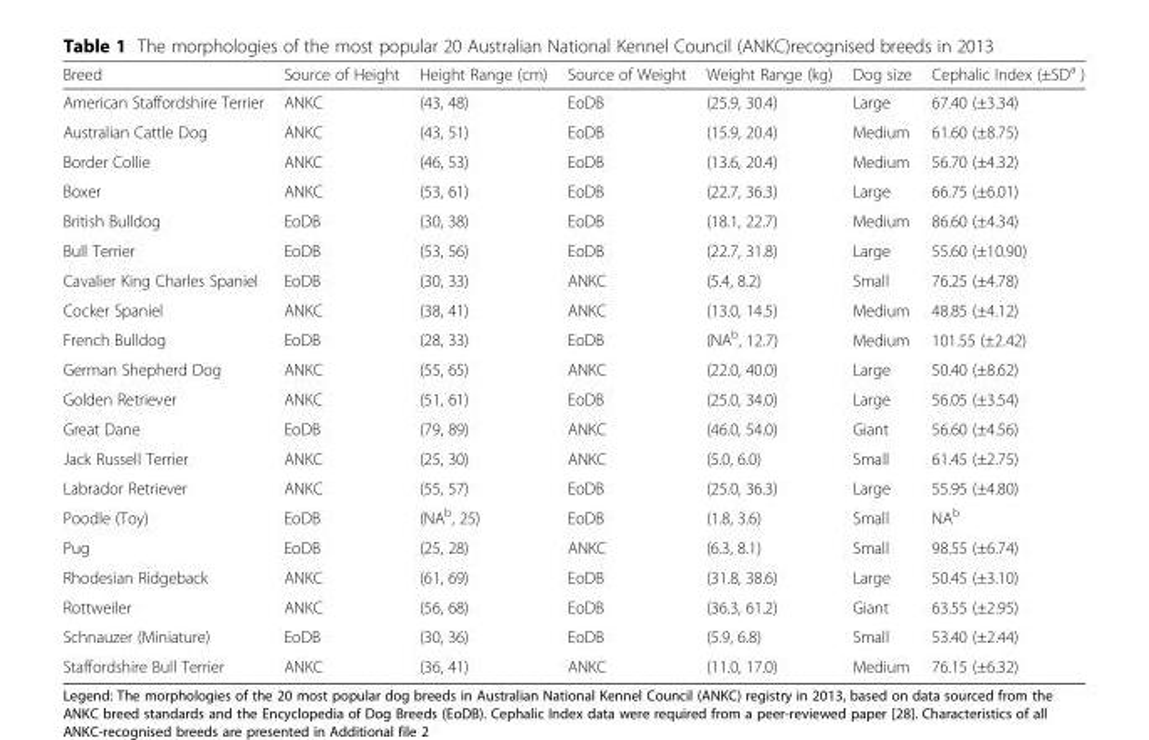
<table><thead><tr><td>Breed</td><td>Source of Height</td><td>Height Range (cm)</td><td>Source of Weight</td><td>Weight Range (kg)</td><td>Dog size</td><td>Cephalic Index (±SD<sup>a</sup> )</td></tr></thead><tbody><tr><td>American Staffordshire Terrier</td><td>ANKC</td><td>(43, 48)</td><td>EoDB</td><td>(25.9, 30.4)</td><td>Large</td><td>67.40 (±3.34)</td></tr><tr><td>Australian Cattle Dog</td><td>ANKC</td><td>(43, 51)</td><td>EoDB</td><td>(15.9, 20.4)</td><td>Medium</td><td>61.60 (±8.75)</td></tr><tr><td>Border Collie</td><td>ANKC</td><td>(46, 53)</td><td>EoDB</td><td>(13.6, 20.4)</td><td>Medium</td><td>56.70 (±4.32)</td></tr><tr><td>Boxer</td><td>ANKC</td><td>(53, 61)</td><td>EoDB</td><td>(22.7, 36.3)</td><td>Large</td><td>66.75 (±6.01)</td></tr><tr><td>British Bulldog</td><td>EoDB</td><td>(30, 38)</td><td>EoDB</td><td>(18.1, 22.7)</td><td>Medium</td><td>86.60 (±4.34)</td></tr><tr><td>Bull Terrier</td><td>EoDB</td><td>(53, 56)</td><td>EoDB</td><td>(22.7, 31.8)</td><td>Large</td><td>55.60 (±10.90)</td></tr><tr><td>Cavalier King Charles Spaniel</td><td>EoDB</td><td>(30, 33)</td><td>ANKC</td><td>(5.4, 8.2)</td><td>Small</td><td>76.25 (±4.78)</td></tr><tr><td>Cocker Spaniel</td><td>ANKC</td><td>(38, 41)</td><td>ANKC</td><td>(13.0, 14.5)</td><td>Medium</td><td>48.85 (±4.12)</td></tr><tr><td>French Bulldog</td><td>EoDB</td><td>(28, 33)</td><td>EoDB</td><td>(NA<sup>b</sup>, 12.7)</td><td>Medium</td><td>101.55 (±2.42)</td></tr><tr><td>German Shepherd Dog</td><td>ANKC</td><td>(55, 65)</td><td>ANKC</td><td>(22.0, 40.0)</td><td>Large</td><td>50.40 (±8.62)</td></tr><tr><td>Golden Retriever</td><td>ANKC</td><td>(51, 61)</td><td>EoDB</td><td>(25.0, 34.0)</td><td>Large</td><td>56.05 (±3.54)</td></tr><tr><td>Great Dane</td><td>EoDB</td><td>(79, 89)</td><td>ANKC</td><td>(46.0, 54.0)</td><td>Giant</td><td>56.60 (±4.56)</td></tr><tr><td>Jack Russell Terrier</td><td>ANKC</td><td>(25, 30)</td><td>ANKC</td><td>(5.0, 6.0)</td><td>Small</td><td>61.45 (±2.75)</td></tr><tr><td>Labrador Retriever</td><td>ANKC</td><td>(55, 57)</td><td>EoDB</td><td>(25.0, 36.3)</td><td>Large</td><td>55.95 (±4.80)</td></tr><tr><td>Poodle (Toy)</td><td>EoDB</td><td>(NA<sup>b</sup>, 25)</td><td>EoDB</td><td>(1.8, 3.6)</td><td>Small</td><td>NA<sup>b</sup></td></tr><tr><td>Pug</td><td>EoDB</td><td>(25, 28)</td><td>ANKC</td><td>(6.3, 8.1)</td><td>Small</td><td>98.55 (±6.74)</td></tr><tr><td>Rhodesian Ridgeback</td><td>ANKC</td><td>(61, 69)</td><td>EoDB</td><td>(31.8, 38.6)</td><td>Large</td><td>50.45 (±3.10)</td></tr><tr><td>Rottweiler</td><td>ANKC</td><td>(56, 68)</td><td>EoDB</td><td>(36.3, 61.2)</td><td>Giant</td><td>63.55 (±2.95)</td></tr><tr><td>Schnauzer (Miniature)</td><td>EoDB</td><td>(30, 36)</td><td>EoDB</td><td>(5.9, 6.8)</td><td>Small</td><td>53.40 (±2.44)</td></tr><tr><td>Staffordshire Bull Terrier</td><td>ANKC</td><td>(36, 41)</td><td>ANKC</td><td>(11.0, 17.0)</td><td>Medium</td><td>76.15 (±6.32)</td></tr></tbody></table>